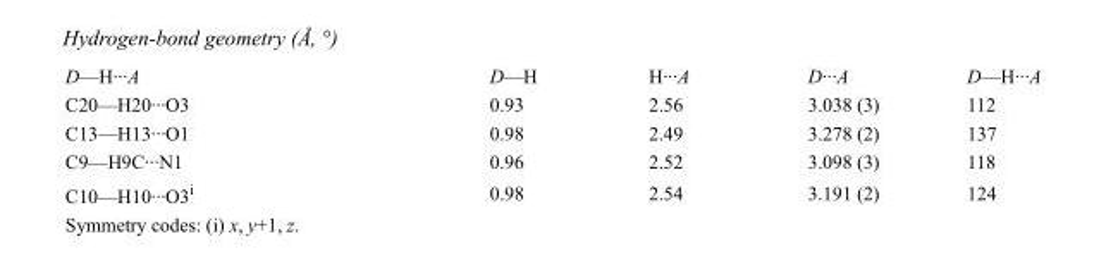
<table><tbody><tr><td>D—H···A</td><td>D—H</td><td>H···A</td><td>D···A</td><td>D—H···A</td></tr><tr><td>C20—H20···O3</td><td>0.93</td><td>2.56</td><td>3.038 (3)</td><td>112</td></tr><tr><td>C13—H13···O1</td><td>0.98</td><td>2.49</td><td>3.278 (2)</td><td>137</td></tr><tr><td>C9—H9C···N1</td><td>0.96</td><td>2.52</td><td>3.098 (3)</td><td>118</td></tr><tr><td>C10—H10···O3<sup>i</sup></td><td>0.98</td><td>2.54</td><td>3.191 (2)</td><td>124</td></tr></tbody></table>